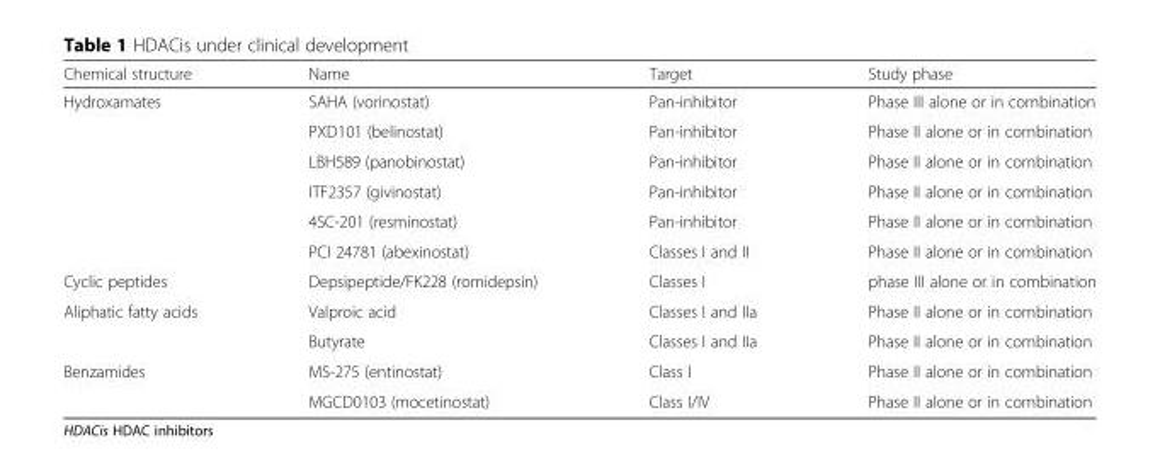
<table><thead><tr><td>Chemical structure</td><td>Name</td><td>Target</td><td>Study phase</td></tr></thead><tbody><tr><td rowspan="6">Hydroxamates</td><td>SAHA (vorinostat)</td><td>Pan-inhibitor</td><td>Phase III alone or in combination</td></tr><tr><td>PXD101 (belinostat)</td><td>Pan-inhibitor</td><td>Phase II alone or in combination</td></tr><tr><td>LBH589 (panobinostat)</td><td>Pan-inhibitor</td><td>Phase II alone or in combination</td></tr><tr><td>ITF2357 (givinostat)</td><td>Pan-inhibitor</td><td>Phase II alone or in combination</td></tr><tr><td>4SC-201 (resminostat)</td><td>Pan-inhibitor</td><td>Phase II alone or in combination</td></tr><tr><td>PCI 24781 (abexinostat)</td><td>Classes I and II</td><td>Phase II alone or in combination</td></tr><tr><td>Cyclic peptides</td><td>Depsipeptide/FK228 (romidepsin)</td><td>Classes I</td><td>phase III alone or in combination</td></tr><tr><td rowspan="2">Aliphatic fatty acids</td><td>Valproic acid</td><td>Classes I and IIa</td><td>Phase II alone or in combination</td></tr><tr><td>Butyrate</td><td>Classes I and IIa</td><td>Phase II alone or in combination</td></tr><tr><td rowspan="2">Benzamides</td><td>MS-275 (entinostat)</td><td>Class I</td><td>Phase II alone or in combination</td></tr><tr><td>MGCD0103 (mocetinostat)</td><td>Class I/IV</td><td>Phase II alone or in combination</td></tr></tbody></table>